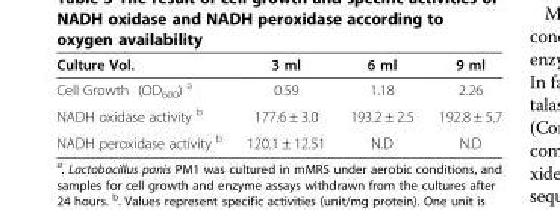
<table><thead><tr><td>Culture Vol.</td><td>3 ml</td><td>6 ml</td><td>9 ml</td></tr></thead><tbody><tr><td>Cell Growth (OD<sub>600</sub>) <sup>a</sup></td><td>0.59</td><td>1.18</td><td>2.26</td></tr><tr><td>NADH oxidase activity <sup>b</sup></td><td>177.6 ± 3.0</td><td>193.2 ± 2.5</td><td>192.8 ± 5.7</td></tr><tr><td>NADH peroxidase activity <sup>b</sup></td><td>120.1 ± 12.51</td><td>N.D</td><td>N.D</td></tr></tbody></table>